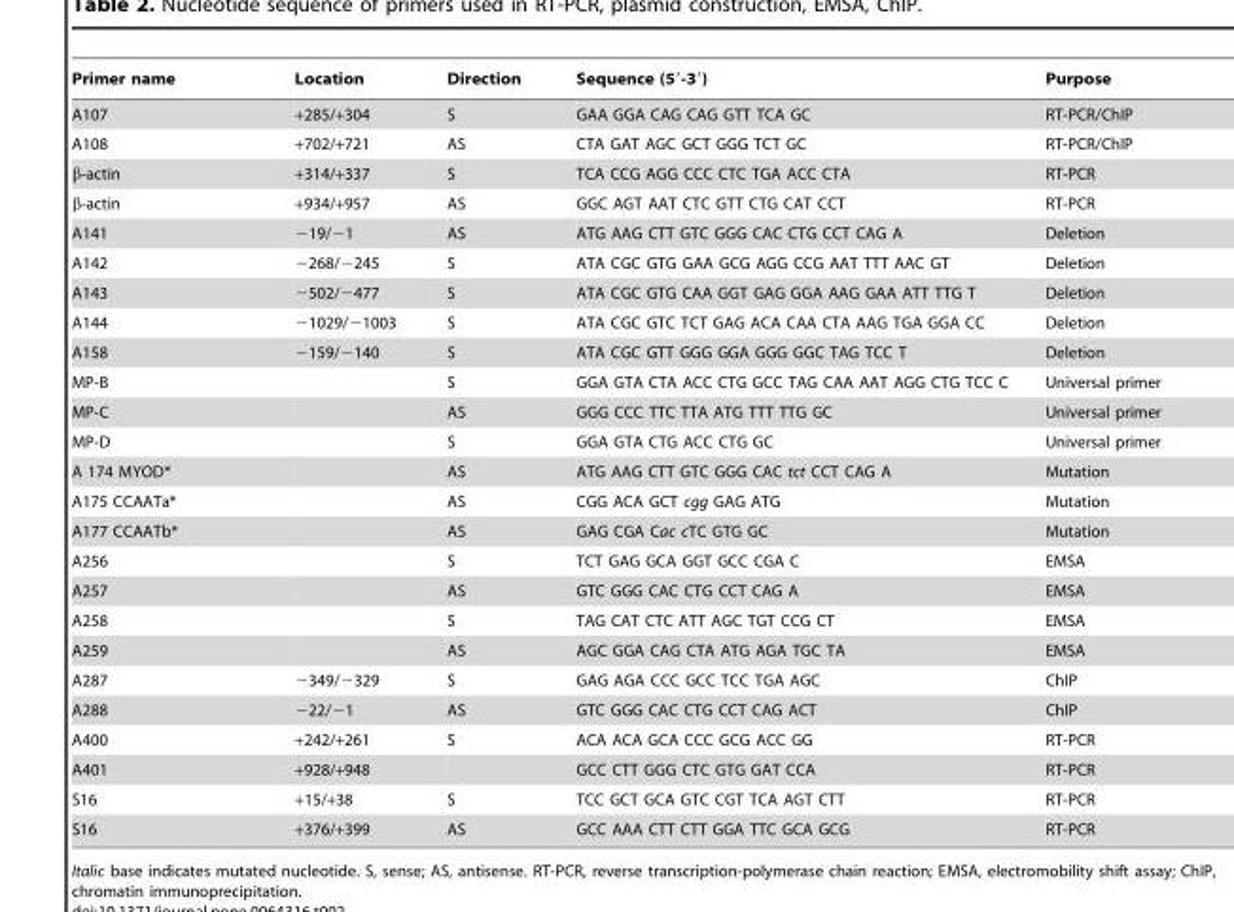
<table><thead><tr><td>Primer name</td><td>Location</td><td>Direction</td><td>Sequence (5′-3′)</td><td>Purpose</td></tr></thead><tbody><tr><td>A107</td><td>+285/+304</td><td>S</td><td>GAA GGA CAG CAG GTT TCA GC</td><td>RT-PCR/ChIP</td></tr><tr><td>A108</td><td>+702/+721</td><td>AS</td><td>CTA GAT AGC GCT GGG TCT GC</td><td>RT-PCR/ChIP</td></tr><tr><td>β-actin</td><td>+314/+337</td><td>S</td><td>TCA CCG AGG CCC CTC TGA ACC CTA</td><td>RT-PCR</td></tr><tr><td>β-actin</td><td>+934/+957</td><td>AS</td><td>GGC AGT AAT CTC GTT CTG CAT CCT</td><td>RT-PCR</td></tr><tr><td>A141</td><td>−19/−1</td><td>AS</td><td>ATG AAG CTT GTC GGG CAC CTG CCT CAG A</td><td>Deletion</td></tr><tr><td>A142</td><td>−268/−245</td><td>S</td><td>ATA CGC GTG GAA GCG AGG CCG AAT TTT AAC GT</td><td>Deletion</td></tr><tr><td>A143</td><td>−502/−477</td><td>S</td><td>ATA CGC GTG CAA GGT GAG GGA AAG GAA ATT TTG T</td><td>Deletion</td></tr><tr><td>A144</td><td>−1029/−1003</td><td>S</td><td>ATA CGC GTC TCT GAG ACA CAA CTA AAG TGA GGA CC</td><td>Deletion</td></tr><tr><td>A158</td><td>−159/−140</td><td>S</td><td>ATA CGC GTT GGG GGA GGG GGC TAG TCC T</td><td>Deletion</td></tr><tr><td>MP-B</td><td></td><td>S</td><td>GGA GTA CTA ACC CTG GCC TAG CAA AAT AGG CTG TCC C</td><td>Universal primer</td></tr><tr><td>MP-C</td><td></td><td>AS</td><td>GGG CCC TTC TTA ATG TTT TTG GC</td><td>Universal primer</td></tr><tr><td>MP-D</td><td></td><td>S</td><td>GGA GTA CTG ACC CTG GC</td><td>Universal primer</td></tr><tr><td>A 174 MYOD*</td><td></td><td>AS</td><td>ATG AAG CTT GTC GGG CAC tct CCT CAG A</td><td>Mutation</td></tr><tr><td>A175 CCAATa*</td><td></td><td>AS</td><td>CGG ACA GCT cgg GAG ATG</td><td>Mutation</td></tr><tr><td>A177 CCAATb*</td><td></td><td>AS</td><td>GAG CGA Cac cTC GTG GC</td><td>Mutation</td></tr><tr><td>A256</td><td></td><td>S</td><td>TCT GAG GCA GGT GCC CGA C</td><td>EMSA</td></tr><tr><td>A257</td><td></td><td>AS</td><td>GTC GGG CAC CTG CCT CAG A</td><td>EMSA</td></tr><tr><td>A258</td><td></td><td>S</td><td>TAG CAT CTC ATT AGC TGT CCG CT</td><td>EMSA</td></tr><tr><td>A259</td><td></td><td>AS</td><td>AGC GGA CAG CTA ATG AGA TGC TA</td><td>EMSA</td></tr><tr><td>A287</td><td>−349/−329</td><td>S</td><td>GAG AGA CCC GCC TCC TGA AGC</td><td>ChIP</td></tr><tr><td>A288</td><td>−22/−1</td><td>AS</td><td>GTC GGG CAC CTG CCT CAG ACT</td><td>ChIP</td></tr><tr><td>A400</td><td>+242/+261</td><td>S</td><td>ACA ACA GCA CCC GCG ACC GG</td><td>RT-PCR</td></tr><tr><td>A401</td><td>+928/+948</td><td></td><td>GCC CTT GGG CTC GTG GAT CCA</td><td>RT-PCR</td></tr><tr><td>S16</td><td>+15/+38</td><td>S</td><td>TCC GCT GCA GTC CGT TCA AGT CTT</td><td>RT-PCR</td></tr><tr><td>S16</td><td>+376/+399</td><td>AS</td><td>GCC AAA CTT CTT GGA TTC GCA GCG</td><td>RT-PCR</td></tr></tbody></table>